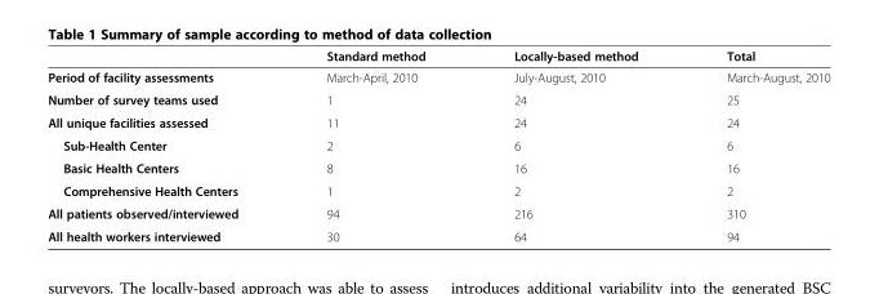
<table><thead><tr><td></td><td>Standard method</td><td>Locally-based method</td><td>Total</td></tr></thead><tbody><tr><td>Period of facility assessments</td><td>March-April, 2010</td><td>July-August, 2010</td><td>March-August, 2010</td></tr><tr><td>Number of survey teams used</td><td>1</td><td>24</td><td>25</td></tr><tr><td>All unique facilities assessed</td><td>11</td><td>24</td><td>24</td></tr><tr><td>Sub-Health Center</td><td>2</td><td>6</td><td>6</td></tr><tr><td>Basic Health Centers</td><td>8</td><td>16</td><td>16</td></tr><tr><td>Comprehensive Health Centers</td><td>1</td><td>2</td><td>2</td></tr><tr><td>All patients observed/interviewed</td><td>94</td><td>216</td><td>310</td></tr><tr><td>All health workers interviewed</td><td>30</td><td>64</td><td>94</td></tr></tbody></table>